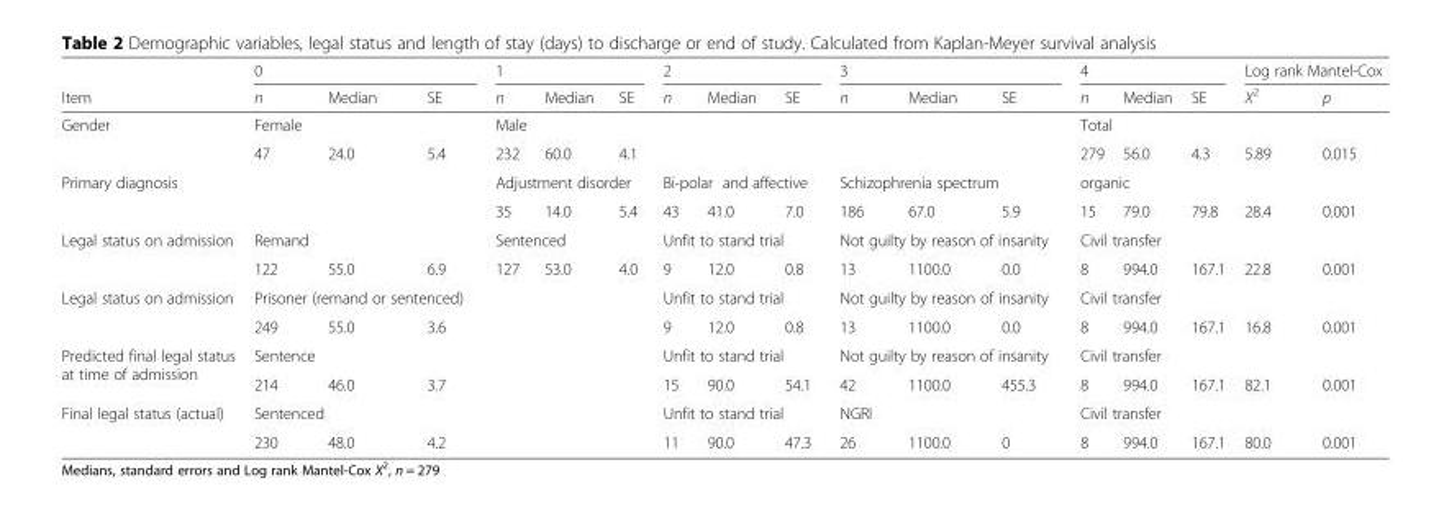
<table><thead><tr><td rowspan="2">Item</td><td colspan="3">0</td><td colspan="3">1</td><td colspan="3">2</td><td colspan="3">3</td><td colspan="3">4</td><td colspan="2">Log rank Mantel-Cox</td></tr><tr><td>n</td><td>Median</td><td>SE</td><td>n</td><td>Median</td><td>SE</td><td>n</td><td>Median</td><td>SE</td><td>n</td><td>Median</td><td>SE</td><td>n</td><td>Median</td><td>SE</td><td>X<sup>2</sup></td><td>p</td></tr></thead><tbody><tr><td rowspan="2">Gender</td><td colspan="3">Female</td><td colspan="3">Male</td><td colspan="3"></td><td colspan="3"></td><td colspan="3">Total</td><td></td><td></td></tr><tr><td>47</td><td>24.0</td><td>5.4</td><td>232</td><td>60.0</td><td>4.1</td><td></td><td></td><td></td><td></td><td></td><td></td><td>279</td><td>56.0</td><td>4.3</td><td>5.89</td><td>0.015</td></tr><tr><td rowspan="2">Primary diagnosis</td><td colspan="3"></td><td colspan="3">Adjustment disorder</td><td colspan="3">Bi-polar and affective</td><td colspan="3">Schizophrenia spectrum</td><td colspan="3">organic</td><td></td><td></td></tr><tr><td></td><td></td><td></td><td>35</td><td>14.0</td><td>5.4</td><td>43</td><td>41.0</td><td>7.0</td><td>186</td><td>67.0</td><td>5.9</td><td>15</td><td>79.0</td><td>79.8</td><td>28.4</td><td>0.001</td></tr><tr><td rowspan="2">Legal status on admission</td><td colspan="3">Remand</td><td colspan="3">Sentenced</td><td colspan="3">Unfit to stand trial</td><td colspan="3">Not guilty by reason of insanity</td><td colspan="3">Civil transfer</td><td></td><td></td></tr><tr><td>122</td><td>55.0</td><td>6.9</td><td>127</td><td>53.0</td><td>4.0</td><td>9</td><td>12.0</td><td>0.8</td><td>13</td><td>1100.0</td><td>0.0</td><td>8</td><td>994.0</td><td>167.1</td><td>22.8</td><td>0.001</td></tr><tr><td rowspan="2">Legal status on admission</td><td colspan="3">Prisoner (remand or sentenced)</td><td colspan="3"></td><td colspan="3">Unfit to stand trial</td><td colspan="3">Not guilty by reason of insanity</td><td colspan="3">Civil transfer</td><td></td><td></td></tr><tr><td>249</td><td>55.0</td><td>3.6</td><td></td><td></td><td></td><td>9</td><td>12.0</td><td>0.8</td><td>13</td><td>1100.0</td><td>0.0</td><td>8</td><td>994.0</td><td>167.1</td><td>16.8</td><td>0.001</td></tr><tr><td rowspan="2">Predicted final legal status at time of admission</td><td colspan="3">Sentence</td><td colspan="3"></td><td colspan="3">Unfit to stand trial</td><td colspan="3">Not guilty by reason of insanity</td><td colspan="3">Civil transfer</td><td></td><td></td></tr><tr><td>214</td><td>46.0</td><td>3.7</td><td></td><td></td><td></td><td>15</td><td>90.0</td><td>54.1</td><td>42</td><td>1100.0</td><td>455.3</td><td>8</td><td>994.0</td><td>167.1</td><td>82.1</td><td>0.001</td></tr><tr><td rowspan="2">Final legal status (actual)</td><td colspan="3">Sentenced</td><td colspan="3"></td><td colspan="3">Unfit to stand trial</td><td colspan="3">NGRI</td><td colspan="3">Civil transfer</td><td></td><td></td></tr><tr><td>230</td><td>48.0</td><td>4.2</td><td></td><td></td><td></td><td>11</td><td>90.0</td><td>47.3</td><td>26</td><td>1100.0</td><td>0</td><td>8</td><td>994.0</td><td>167.1</td><td>80.0</td><td>0.001</td></tr></tbody></table>